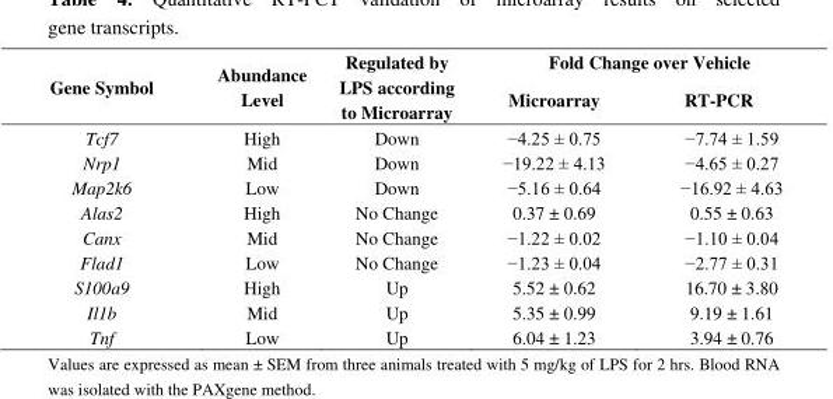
<table><thead><tr><td rowspan="2">Gene Symbol</td><td rowspan="2">Abundance Level</td><td rowspan="2">Regulated by LPS according to Microarray</td><td colspan="2">Fold Change over Vehicle</td></tr><tr><td>Microarray</td><td>RT-PCR</td></tr></thead><tbody><tr><td>Tcf7</td><td>High</td><td>Down</td><td>−4.25 ± 0.75</td><td>−7.74 ± 1.59</td></tr><tr><td>Nrp1</td><td>Mid</td><td>Down</td><td>−19.22 ± 4.13</td><td>−4.65 ± 0.27</td></tr><tr><td>Map2k6</td><td>Low</td><td>Down</td><td>−5.16 ± 0.64</td><td>−16.92 ± 4.63</td></tr><tr><td>Alas2</td><td>High</td><td>No Change</td><td>0.37 ± 0.69</td><td>0.55 ± 0.63</td></tr><tr><td>Canx</td><td>Mid</td><td>No Change</td><td>−1.22 ± 0.02</td><td>−1.10 ± 0.04</td></tr><tr><td>Flad1</td><td>Low</td><td>No Change</td><td>−1.23 ± 0.04</td><td>−2.77 ± 0.31</td></tr><tr><td>S100a9</td><td>High</td><td>Up</td><td>5.52 ± 0.62</td><td>16.70 ± 3.80</td></tr><tr><td>Il1b</td><td>Mid</td><td>Up</td><td>5.35 ± 0.99</td><td>9.19 ± 1.61</td></tr><tr><td>Tnf</td><td>Low</td><td>Up</td><td>6.04 ± 1.23</td><td>3.94 ± 0.76</td></tr></tbody></table>